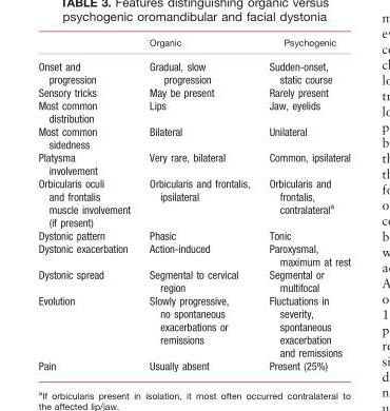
<table><thead><tr><td></td><td>Organic</td><td>Psychogenic</td></tr></thead><tbody><tr><td>Onset and progression</td><td>Gradual, slow progression</td><td>Sudden-onset, static course</td></tr><tr><td>Sensory tricks</td><td>May be present</td><td>Rarely present</td></tr><tr><td>Most common distribution</td><td>Lips</td><td>Jaw, eyelids</td></tr><tr><td>Most common sidedness</td><td>Bilateral</td><td>Unilateral</td></tr><tr><td>Platysma involvement</td><td>Very rare, bilateral</td><td>Common, ipsilateral</td></tr><tr><td>Orbicularis oculi and frontalis muscle involvement (if present)</td><td>Orbicularis and frontalis, ipsilateral</td><td>Orbicularis and frontalis, contralateral<sup>a</sup></td></tr><tr><td>Dystonic pattern</td><td>Phasic</td><td>Tonic</td></tr><tr><td>Dystonic exacerbation</td><td>Action-induced</td><td>Paroxysmal, maximum at rest</td></tr><tr><td>Dystonic spread</td><td>Segmental to cervical region</td><td>Segmental or multifocal</td></tr><tr><td>Evolution</td><td>Slowly progressive, no spontaneous exacerbations or remissions</td><td>Fluctuations in severity, spontaneous exacerbation and remissions</td></tr><tr><td>Pain</td><td>Usually absent</td><td>Present (25%)</td></tr></tbody></table>